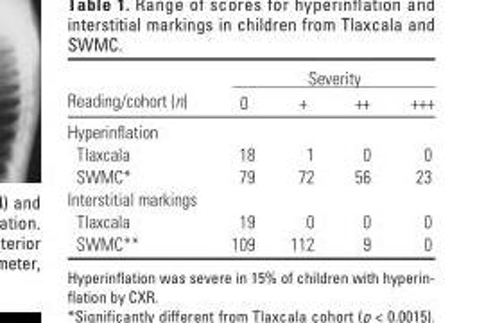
<table><thead><tr><td rowspan="2">Reading/cohort (n)</td><td colspan="4">Severity</td></tr><tr><td>0</td><td>+</td><td>++</td><td>+++</td></tr></thead><tbody><tr><td colspan="5">Hyperinflation</td></tr><tr><td>Tlaxcala</td><td>18</td><td>1</td><td>0</td><td>0</td></tr><tr><td>SWMC*</td><td>79</td><td>72</td><td>56</td><td>23</td></tr><tr><td colspan="5">Interstitial markings</td></tr><tr><td>Tlaxcala</td><td>19</td><td>0</td><td>0</td><td>0</td></tr><tr><td>SWMC**</td><td>109</td><td>112</td><td>9</td><td>0</td></tr></tbody></table>